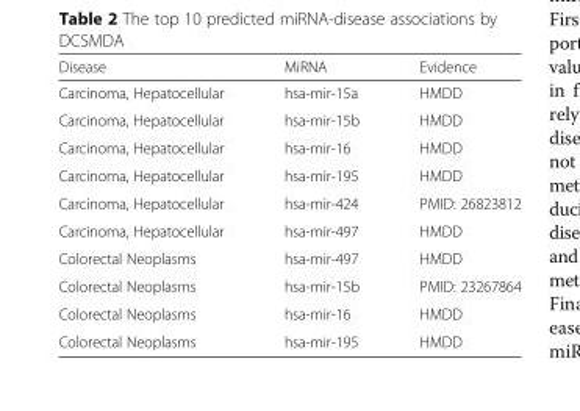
<table><thead><tr><td>Disease</td><td>MiRNA</td><td>Evidence</td></tr></thead><tbody><tr><td>Carcinoma, Hepatocellular</td><td>hsa-mir-15a</td><td>HMDD</td></tr><tr><td>Carcinoma, Hepatocellular</td><td>hsa-mir-15b</td><td>HMDD</td></tr><tr><td>Carcinoma, Hepatocellular</td><td>hsa-mir-16</td><td>HMDD</td></tr><tr><td>Carcinoma, Hepatocellular</td><td>hsa-mir-195</td><td>HMDD</td></tr><tr><td>Carcinoma, Hepatocellular</td><td>hsa-mir-424</td><td>PMID: 26823812</td></tr><tr><td>Carcinoma, Hepatocellular</td><td>hsa-mir-497</td><td>HMDD</td></tr><tr><td>Colorectal Neoplasms</td><td>hsa-mir-497</td><td>HMDD</td></tr><tr><td>Colorectal Neoplasms</td><td>hsa-mir-15b</td><td>PMID: 23267864</td></tr><tr><td>Colorectal Neoplasms</td><td>hsa-mir-16</td><td>HMDD</td></tr><tr><td>Colorectal Neoplasms</td><td>hsa-mir-195</td><td>HMDD</td></tr></tbody></table>